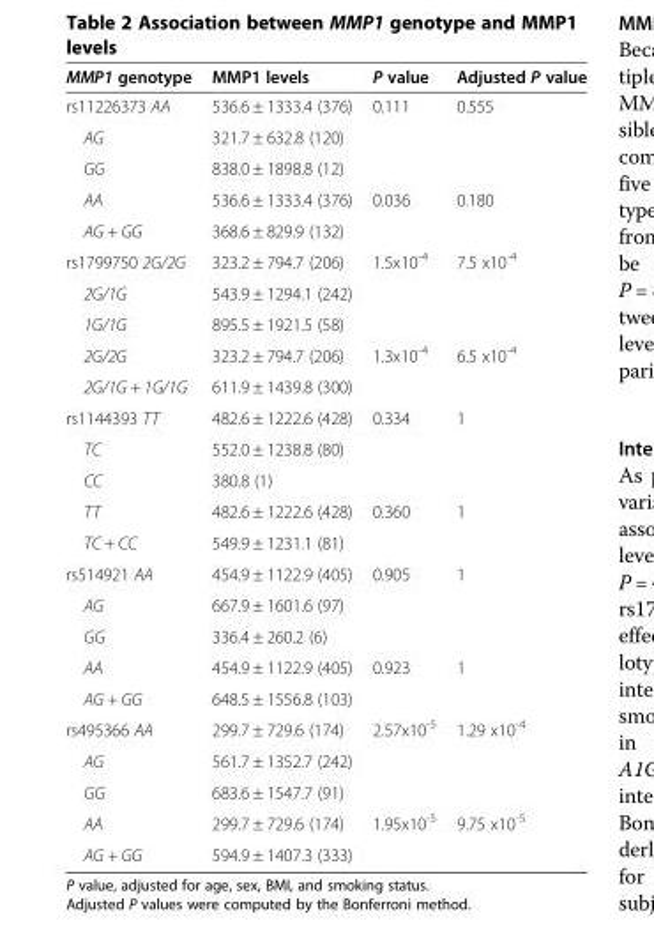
<table><thead><tr><td>MMP1 genotype</td><td>MMP1 levels</td><td>P value</td><td>Adjusted P value</td></tr></thead><tbody><tr><td>rs11226373 AA</td><td>536.6 ± 1333.4 (376)</td><td>0.111</td><td>0.555</td></tr><tr><td>AG</td><td>321.7 ± 632.8 (120)</td><td></td><td></td></tr><tr><td>GG</td><td>838.0 ± 1898.8 (12)</td><td></td><td></td></tr><tr><td>AA</td><td>536.6 ± 1333.4 (376)</td><td>0.036</td><td>0.180</td></tr><tr><td>AG + GG</td><td>368.6 ± 829.9 (132)</td><td></td><td></td></tr><tr><td>rs1799750 2G/2G</td><td>323.2 ± 794.7 (206)</td><td>1.5x10<sup>-4</sup></td><td>7.5 x10<sup>-4</sup></td></tr><tr><td>2G/1G</td><td>543.9 ± 1294.1 (242)</td><td></td><td></td></tr><tr><td>1G/1G</td><td>895.5 ± 1921.5 (58)</td><td></td><td></td></tr><tr><td>2G/2G</td><td>323.2 ± 794.7 (206)</td><td>1.3x10<sup>-4</sup></td><td>6.5 x10<sup>-4</sup></td></tr><tr><td>2G/1G + 1G/1G</td><td>611.9 ± 1439.8 (300)</td><td></td><td></td></tr><tr><td>rs1144393 TT</td><td>482.6 ± 1222.6 (428)</td><td>0.334</td><td>1</td></tr><tr><td>TC</td><td>552.0 ± 1238.8 (80)</td><td></td><td></td></tr><tr><td>CC</td><td>380.8 (1)</td><td></td><td></td></tr><tr><td>TT</td><td>482.6 ± 1222.6 (428)</td><td>0.360</td><td>1</td></tr><tr><td>TC + CC</td><td>549.9 ± 1231.1 (81)</td><td></td><td></td></tr><tr><td>rs514921 AA</td><td>454.9 ± 1122.9 (405)</td><td>0.905</td><td>1</td></tr><tr><td>AG</td><td>667.9 ± 1601.6 (97)</td><td></td><td></td></tr><tr><td>GG</td><td>336.4 ± 260.2 (6)</td><td></td><td></td></tr><tr><td>AA</td><td>454.9 ± 1122.9 (405)</td><td>0.923</td><td>1</td></tr><tr><td>AG + GG</td><td>648.5 ± 1556.8 (103)</td><td></td><td></td></tr><tr><td>rs495366 AA</td><td>299.7 ± 729.6 (174)</td><td>2.57x10<sup>-5</sup></td><td>1.29 x10<sup>-4</sup></td></tr><tr><td>AG</td><td>561.7 ± 1352.7 (242)</td><td></td><td></td></tr><tr><td>GG</td><td>683.6 ± 1547.7 (91)</td><td></td><td></td></tr><tr><td>AA</td><td>299.7 ± 729.6 (174)</td><td>1.95x10<sup>-5</sup></td><td>9.75 x10<sup>-5</sup></td></tr><tr><td>AG + GG</td><td>594.9 ± 1407.3 (333)</td><td></td><td></td></tr></tbody></table>